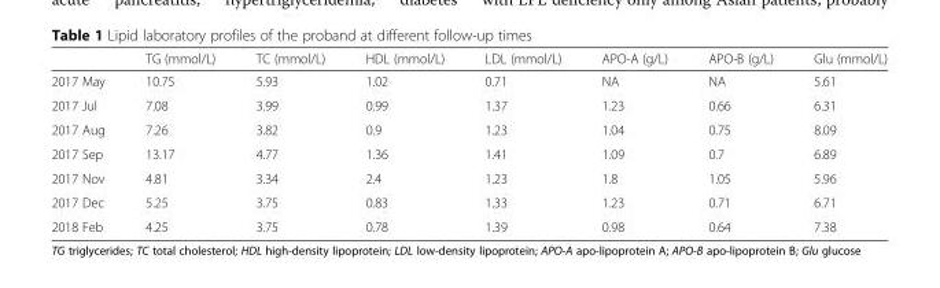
<table><thead><tr><td></td><td>TG (mmol/L)</td><td>TC (mmol/L)</td><td>HDL (mmol/L)</td><td>LDL (mmol/L)</td><td>APO-A (g/L)</td><td>APO-B (g/L)</td><td>Glu (mmol/L)</td></tr></thead><tbody><tr><td>2017 May</td><td>10.75</td><td>5.93</td><td>1.02</td><td>0.71</td><td>NA</td><td>NA</td><td>5.61</td></tr><tr><td>2017 Jul</td><td>7.08</td><td>3.99</td><td>0.99</td><td>1.37</td><td>1.23</td><td>0.66</td><td>6.31</td></tr><tr><td>2017 Aug</td><td>7.26</td><td>3.82</td><td>0.9</td><td>1.23</td><td>1.04</td><td>0.75</td><td>8.09</td></tr><tr><td>2017 Sep</td><td>13.17</td><td>4.77</td><td>1.36</td><td>1.41</td><td>1.09</td><td>0.7</td><td>6.89</td></tr><tr><td>2017 Nov</td><td>4.81</td><td>3.34</td><td>2.4</td><td>1.23</td><td>1.8</td><td>1.05</td><td>5.96</td></tr><tr><td>2017 Dec</td><td>5.25</td><td>3.75</td><td>0.83</td><td>1.33</td><td>1.23</td><td>0.71</td><td>6.71</td></tr><tr><td>2018 Feb</td><td>4.25</td><td>3.75</td><td>0.78</td><td>1.39</td><td>0.98</td><td>0.64</td><td>7.38</td></tr></tbody></table>